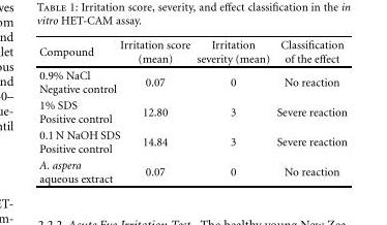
<table><thead><tr><td>Compound</td><td>Irritation score (mean)</td><td>Irritation severity (mean)</td><td>Classification of the effect</td></tr></thead><tbody><tr><td>0.9% NaCl Negative control</td><td>0.07</td><td>0</td><td>No reaction</td></tr><tr><td>1% SDS Positive control</td><td>12.80</td><td>3</td><td>Severe reaction</td></tr><tr><td>0.1 N NaOH SDS Positive control</td><td>14.84</td><td>3</td><td>Severe reaction</td></tr><tr><td>A. aspera aqueous extract</td><td>0.07</td><td>0</td><td>No reaction</td></tr></tbody></table>